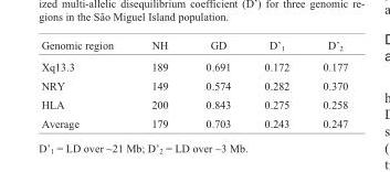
<table><thead><tr><td>Genomic region</td><td>NH</td><td>GD</td><td>D’<sub>1</sub></td><td>D’<sub>2</sub></td></tr></thead><tbody><tr><td>Xq13.3</td><td>189</td><td>0.691</td><td>0.172</td><td>0.177</td></tr><tr><td>NRY</td><td>149</td><td>0.574</td><td>0.282</td><td>0.370</td></tr><tr><td>HLA</td><td>200</td><td>0.843</td><td>0.275</td><td>0.258</td></tr><tr><td>Average</td><td>179</td><td>0.703</td><td>0.243</td><td>0.247</td></tr></tbody></table>